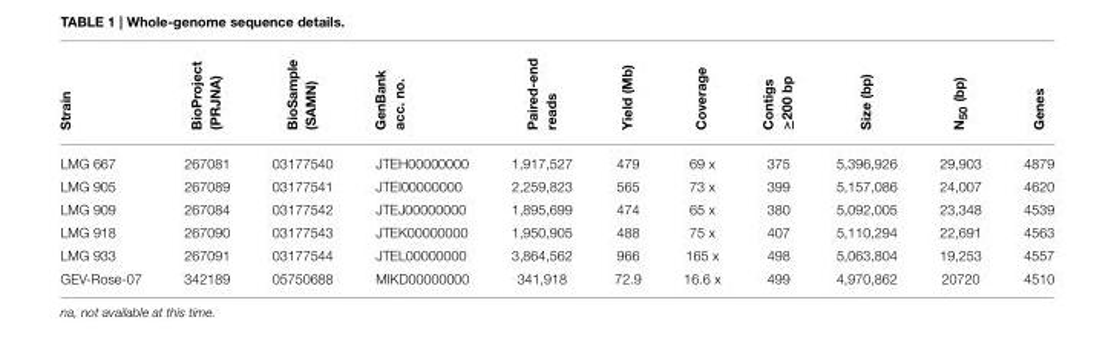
<table><thead><tr><td>Strain</td><td>BioProject (PRJNA)</td><td>BioSample (SAMN)</td><td>GenBank acc. no.</td><td>Paired-end reads</td><td>Yield (Mb)</td><td>Coverage</td><td>Contigs ≥200 bp</td><td>Size (bp)</td><td>N<sub>50</sub> (bp)</td><td>Genes</td></tr></thead><tbody><tr><td>LMG 667</td><td>267081</td><td>03177540</td><td>JTEH00000000</td><td>1,917,527</td><td>479</td><td>69 x</td><td>375</td><td>5,396,926</td><td>29,903</td><td>4879</td></tr><tr><td>LMG 905</td><td>267089</td><td>03177541</td><td>JTEI00000000</td><td>2,259,823</td><td>565</td><td>73 x</td><td>399</td><td>5,157,086</td><td>24,007</td><td>4620</td></tr><tr><td>LMG 909</td><td>267084</td><td>03177542</td><td>JTEJ00000000</td><td>1,895,699</td><td>474</td><td>65 x</td><td>380</td><td>5,092,005</td><td>23,348</td><td>4539</td></tr><tr><td>LMG 918</td><td>267090</td><td>03177543</td><td>JTEK00000000</td><td>1,950,905</td><td>488</td><td>75 x</td><td>407</td><td>5,110,294</td><td>22,691</td><td>4563</td></tr><tr><td>LMG 933</td><td>267091</td><td>03177544</td><td>JTEL00000000</td><td>3,864,562</td><td>966</td><td>165 x</td><td>498</td><td>5,063,804</td><td>19,253</td><td>4557</td></tr><tr><td>GEV-Rose-07</td><td>342189</td><td>05750688</td><td>MIKD00000000</td><td>341,918</td><td>72.9</td><td>16.6 x</td><td>499</td><td>4,970,862</td><td>20720</td><td>4510</td></tr></tbody></table>